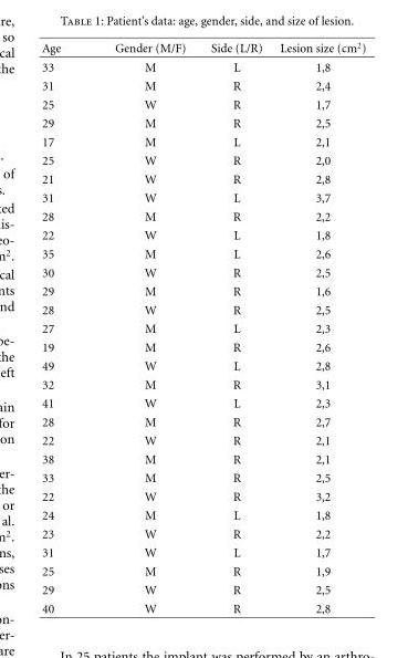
<table><thead><tr><td>Age</td><td>Gender (M/F)</td><td>Side (L/R)</td><td>Lesion size (cm<sup>2</sup>)</td></tr></thead><tbody><tr><td>33</td><td>M</td><td>L</td><td>1,8</td></tr><tr><td>31</td><td>M</td><td>R</td><td>2,4</td></tr><tr><td>25</td><td>W</td><td>R</td><td>1,7</td></tr><tr><td>29</td><td>M</td><td>R</td><td>2,5</td></tr><tr><td>17</td><td>M</td><td>L</td><td>2,1</td></tr><tr><td>25</td><td>W</td><td>R</td><td>2,0</td></tr><tr><td>21</td><td>W</td><td>R</td><td>2,8</td></tr><tr><td>31</td><td>W</td><td>L</td><td>3,7</td></tr><tr><td>28</td><td>M</td><td>R</td><td>2,2</td></tr><tr><td>22</td><td>W</td><td>L</td><td>1,8</td></tr><tr><td>35</td><td>M</td><td>L</td><td>2,6</td></tr><tr><td>30</td><td>W</td><td>R</td><td>2,5</td></tr><tr><td>29</td><td>M</td><td>R</td><td>1,6</td></tr><tr><td>28</td><td>W</td><td>R</td><td>2,5</td></tr><tr><td>27</td><td>M</td><td>L</td><td>2,3</td></tr><tr><td>19</td><td>M</td><td>R</td><td>2,6</td></tr><tr><td>49</td><td>W</td><td>L</td><td>2,8</td></tr><tr><td>32</td><td>M</td><td>R</td><td>3,1</td></tr><tr><td>41</td><td>W</td><td>L</td><td>2,3</td></tr><tr><td>28</td><td>M</td><td>R</td><td>2,7</td></tr><tr><td>22</td><td>W</td><td>R</td><td>2,1</td></tr><tr><td>38</td><td>M</td><td>R</td><td>2,1</td></tr><tr><td>33</td><td>M</td><td>R</td><td>2,5</td></tr><tr><td>22</td><td>W</td><td>R</td><td>3,2</td></tr><tr><td>24</td><td>M</td><td>L</td><td>1,8</td></tr><tr><td>23</td><td>W</td><td>R</td><td>2,2</td></tr><tr><td>31</td><td>W</td><td>L</td><td>1,7</td></tr><tr><td>25</td><td>M</td><td>R</td><td>1,9</td></tr><tr><td>29</td><td>W</td><td>R</td><td>2,5</td></tr><tr><td>40</td><td>W</td><td>R</td><td>2,8</td></tr></tbody></table>